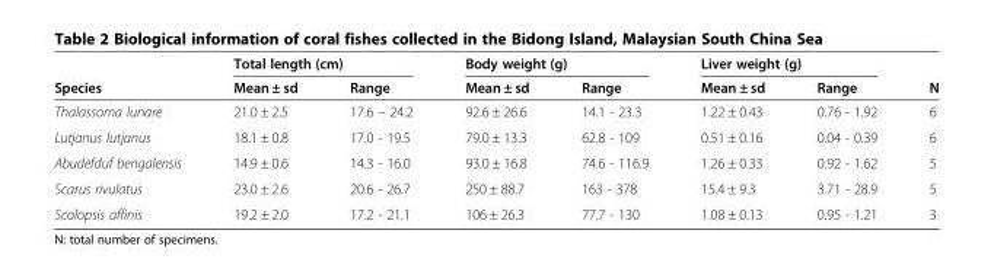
<table><thead><tr><td rowspan="2">Species</td><td colspan="2">Total length (cm)</td><td colspan="2">Body weight (g)</td><td colspan="2">Liver weight (g)</td><td rowspan="2">N</td></tr><tr><td>Mean ± sd</td><td>Range</td><td>Mean ± sd</td><td>Range</td><td>Mean ± sd</td><td>Range</td></tr></thead><tbody><tr><td>Thalassoma lunare</td><td>21.0 ± 2.5</td><td>17.6 – 24.2</td><td>92.6 ± 26.6</td><td>14.1 - 23.3</td><td>1.22 ± 0.43</td><td>0.76 - 1.92</td><td>6</td></tr><tr><td>Lutjanus lutjanus</td><td>18.1 ± 0.8</td><td>17.0 - 19.5</td><td>79.0 ± 13.3</td><td>62.8 - 109</td><td>0.51 ± 0.16</td><td>0.04 - 0.39</td><td>6</td></tr><tr><td>Abudefduf bengalensis</td><td>14.9 ± 0.6</td><td>14.3 - 16.0</td><td>93.0 ± 16.8</td><td>74.6 - 116.9</td><td>1.26 ± 0.33</td><td>0.92 - 1.62</td><td>5</td></tr><tr><td>Scarus rivulatus</td><td>23.0 ± 2.6</td><td>20.6 - 26.7</td><td>250 ± 88.7</td><td>163 - 378</td><td>15.4 ± 9.3</td><td>3.71 - 28.9</td><td>5</td></tr><tr><td>Scolopsis affinis</td><td>19.2 ± 2.0</td><td>17.2 - 21.1</td><td>106 ± 26.3</td><td>77.7 - 130</td><td>1.08 ± 0.13</td><td>0.95 - 1.21</td><td>3</td></tr></tbody></table>